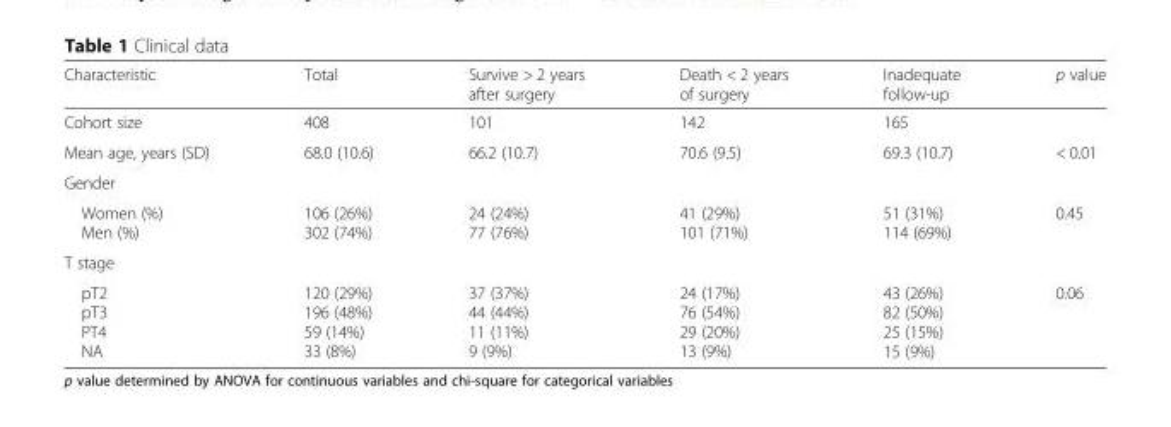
<table><thead><tr><td>Characteristic</td><td>Total</td><td>Survive &gt; 2 years after surgery</td><td>Death &lt; 2 years of surgery</td><td>Inadequate follow-up</td><td>p value</td></tr></thead><tbody><tr><td>Cohort size</td><td>408</td><td>101</td><td>142</td><td>165</td><td></td></tr><tr><td>Mean age, years (SD)</td><td>68.0 (10.6)</td><td>66.2 (10.7)</td><td>70.6 (9.5)</td><td>69.3 (10.7)</td><td>&lt; 0.01</td></tr><tr><td colspan="6">Gender</td></tr><tr><td>Women (%) Men (%)</td><td>106 (26%) 302 (74%)</td><td>24 (24%) 77 (76%)</td><td>41 (29%) 101 (71%)</td><td>51 (31%) 114 (69%)</td><td>0.45</td></tr><tr><td colspan="6">T stage</td></tr><tr><td>pT2 pT3 PT4 NA</td><td>120 (29%) 196 (48%) 59 (14%) 33 (8%)</td><td>37 (37%) 44 (44%) 11 (11%) 9 (9%)</td><td>24 (17%) 76 (54%) 29 (20%) 13 (9%)</td><td>43 (26%) 82 (50%) 25 (15%) 15 (9%)</td><td>0.06</td></tr></tbody></table>